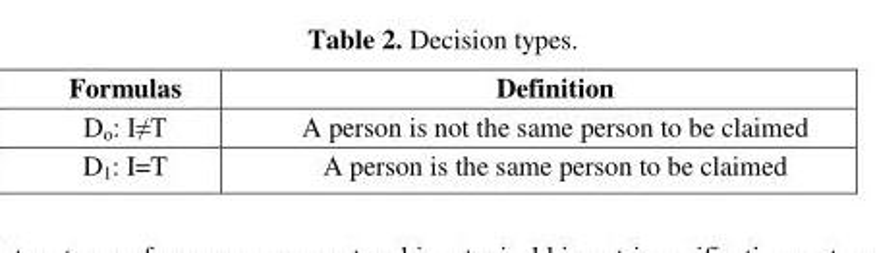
<table><thead><tr><td>Formulas</td><td>Definition</td></tr></thead><tbody><tr><td>D<sub>o</sub>: I≠T</td><td>A person is not the same person to be claimed</td></tr><tr><td>D<sub>1</sub>: I=T</td><td>A person is the same person to be claimed</td></tr></tbody></table>